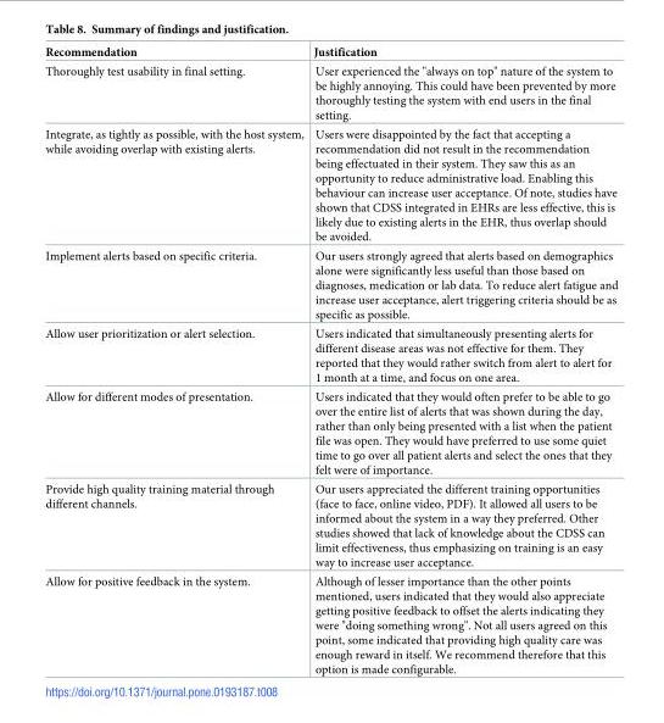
<table><thead><tr><td>Recommendation</td><td>Justification</td></tr></thead><tbody><tr><td>Thoroughly test usability in final setting.</td><td>User experienced the &quot;always on top&quot; nature of the system to be highly annoying. This could have been prevented by more thoroughly testing the system with end users in the final setting.</td></tr><tr><td>Integrate, as tightly as possible, with the host system, while avoiding overlap with existing alerts.</td><td>Users were disappointed by the fact that accepting a recommendation did not result in the recommendation being effectuated in their system. They saw this as an opportunity to reduce administrative load. Enabling this behaviour can increase user acceptance. Of note, studies have shown that CDSS integrated in EHRs are less effective, this is likely due to existing alerts in the EHR, thus overlap should be avoided.</td></tr><tr><td>Implement alerts based on specific criteria.</td><td>Our users strongly agreed that alerts based on demographics alone were significantly less useful than those based on diagnoses, medication or lab data. To reduce alert fatigue and increase user acceptance, alert triggering criteria should be as specific as possible.</td></tr><tr><td>Allow user prioritization or alert selection.</td><td>Users indicated that simultaneously presenting alerts for different disease areas was not effective for them. They reported that they would rather switch from alert to alert for 1 month at a time, and focus on one area.</td></tr><tr><td>Allow for different modes of presentation.</td><td>Users indicated that they would often prefer to be able to go over the entire list of alerts that was shown during the day, rather than only being presented with a list when the patient file was open. They would have preferred to use some quiet time to go over all patient alerts and select the ones that they felt were of importance.</td></tr><tr><td>Provide high quality training material through different channels.</td><td>Our users appreciated the different training opportunities (face to face, online video, PDF). It allowed all users to be informed about the system in a way they preferred. Other studies showed that lack of knowledge about the CDSS can limit effectiveness, thus emphasizing on training is an easy way to increase user acceptance.</td></tr><tr><td>Allow for positive feedback in the system.</td><td>Although of lesser importance than the other points mentioned, users indicated that they would also appreciate getting positive feedback to offset the alerts indicating they were &quot;doing something wrong&quot;. Not all users agreed on this point, some indicated that providing high quality care was enough reward in itself. We recommend therefore that this option is made configurable.</td></tr></tbody></table>